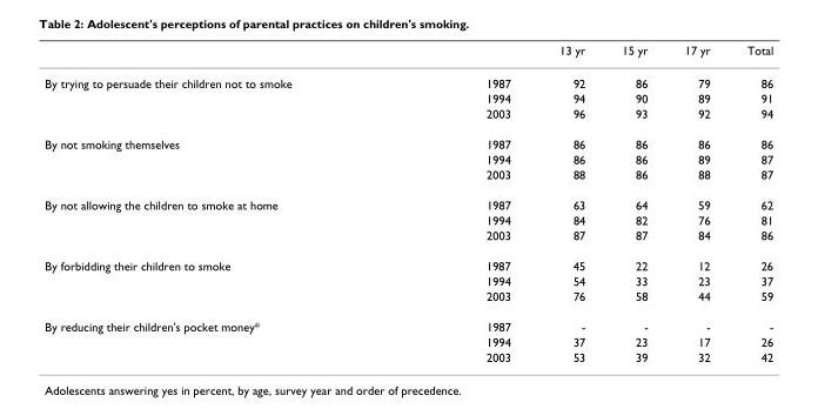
<table><thead><tr><td></td><td></td><td>13 yr</td><td>15 yr</td><td>17 yr</td><td>Total</td></tr></thead><tbody><tr><td rowspan="3">By trying to persuade their children not to smoke</td><td>1987</td><td>92</td><td>86</td><td>79</td><td>86</td></tr><tr><td>1994</td><td>94</td><td>90</td><td>89</td><td>91</td></tr><tr><td>2003</td><td>96</td><td>93</td><td>92</td><td>94</td></tr><tr><td rowspan="3">By not smoking themselves</td><td>1987</td><td>86</td><td>86</td><td>86</td><td>86</td></tr><tr><td>1994</td><td>86</td><td>86</td><td>89</td><td>87</td></tr><tr><td>2003</td><td>88</td><td>86</td><td>88</td><td>87</td></tr><tr><td rowspan="3">By not allowing the children to smoke at home</td><td>1987</td><td>63</td><td>64</td><td>59</td><td>62</td></tr><tr><td>1994</td><td>84</td><td>82</td><td>76</td><td>81</td></tr><tr><td>2003</td><td>87</td><td>87</td><td>84</td><td>86</td></tr><tr><td rowspan="3">By forbidding their children to smoke</td><td>1987</td><td>45</td><td>22</td><td>12</td><td>26</td></tr><tr><td>1994</td><td>54</td><td>33</td><td>23</td><td>37</td></tr><tr><td>2003</td><td>76</td><td>58</td><td>44</td><td>59</td></tr><tr><td rowspan="3">By reducing their children&#x27;s pocket money*</td><td>1987</td><td>-</td><td>-</td><td>-</td><td>-</td></tr><tr><td>1994</td><td>37</td><td>23</td><td>17</td><td>26</td></tr><tr><td>2003</td><td>53</td><td>39</td><td>32</td><td>42</td></tr></tbody></table>